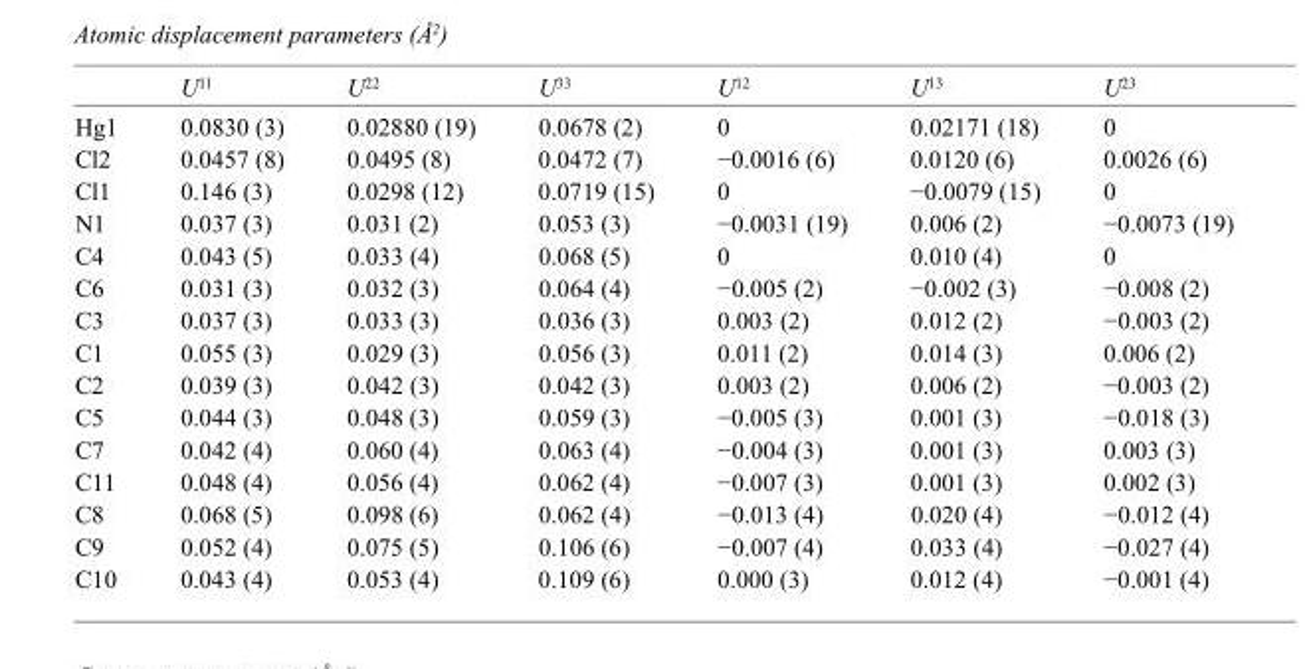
<table><thead><tr><td></td><td>U<sup>11</sup></td><td>U<sup>22</sup></td><td>U<sup>33</sup></td><td>U<sup>12</sup></td><td>U<sup>13</sup></td><td>U<sup>23</sup></td></tr></thead><tbody><tr><td>Hg1</td><td>0.0830 (3)</td><td>0.02880 (19)</td><td>0.0678 (2)</td><td>0</td><td>0.02171 (18)</td><td>0</td></tr><tr><td>Cl2</td><td>0.0457 (8)</td><td>0.0495 (8)</td><td>0.0472 (7)</td><td>−0.0016 (6)</td><td>0.0120 (6)</td><td>0.0026 (6)</td></tr><tr><td>Cl1</td><td>0.146 (3)</td><td>0.0298 (12)</td><td>0.0719 (15)</td><td>0</td><td>−0.0079 (15)</td><td>0</td></tr><tr><td>N1</td><td>0.037 (3)</td><td>0.031 (2)</td><td>0.053 (3)</td><td>−0.0031 (19)</td><td>0.006 (2)</td><td>−0.0073 (19)</td></tr><tr><td>C4</td><td>0.043 (5)</td><td>0.033 (4)</td><td>0.068 (5)</td><td>0</td><td>0.010 (4)</td><td>0</td></tr><tr><td>C6</td><td>0.031 (3)</td><td>0.032 (3)</td><td>0.064 (4)</td><td>−0.005 (2)</td><td>−0.002 (3)</td><td>−0.008 (2)</td></tr><tr><td>C3</td><td>0.037 (3)</td><td>0.033 (3)</td><td>0.036 (3)</td><td>0.003 (2)</td><td>0.012 (2)</td><td>−0.003 (2)</td></tr><tr><td>C1</td><td>0.055 (3)</td><td>0.029 (3)</td><td>0.056 (3)</td><td>0.011 (2)</td><td>0.014 (3)</td><td>0.006 (2)</td></tr><tr><td>C2</td><td>0.039 (3)</td><td>0.042 (3)</td><td>0.042 (3)</td><td>0.003 (2)</td><td>0.006 (2)</td><td>−0.003 (2)</td></tr><tr><td>C5</td><td>0.044 (3)</td><td>0.048 (3)</td><td>0.059 (3)</td><td>−0.005 (3)</td><td>0.001 (3)</td><td>−0.018 (3)</td></tr><tr><td>C7</td><td>0.042 (4)</td><td>0.060 (4)</td><td>0.063 (4)</td><td>−0.004 (3)</td><td>0.001 (3)</td><td>0.003 (3)</td></tr><tr><td>C11</td><td>0.048 (4)</td><td>0.056 (4)</td><td>0.062 (4)</td><td>−0.007 (3)</td><td>0.001 (3)</td><td>0.002 (3)</td></tr><tr><td>C8</td><td>0.068 (5)</td><td>0.098 (6)</td><td>0.062 (4)</td><td>−0.013 (4)</td><td>0.020 (4)</td><td>−0.012 (4)</td></tr><tr><td>C9</td><td>0.052 (4)</td><td>0.075 (5)</td><td>0.106 (6)</td><td>−0.007 (4)</td><td>0.033 (4)</td><td>−0.027 (4)</td></tr><tr><td>C10</td><td>0.043 (4)</td><td>0.053 (4)</td><td>0.109 (6)</td><td>0.000 (3)</td><td>0.012 (4)</td><td>−0.001 (4)</td></tr></tbody></table>